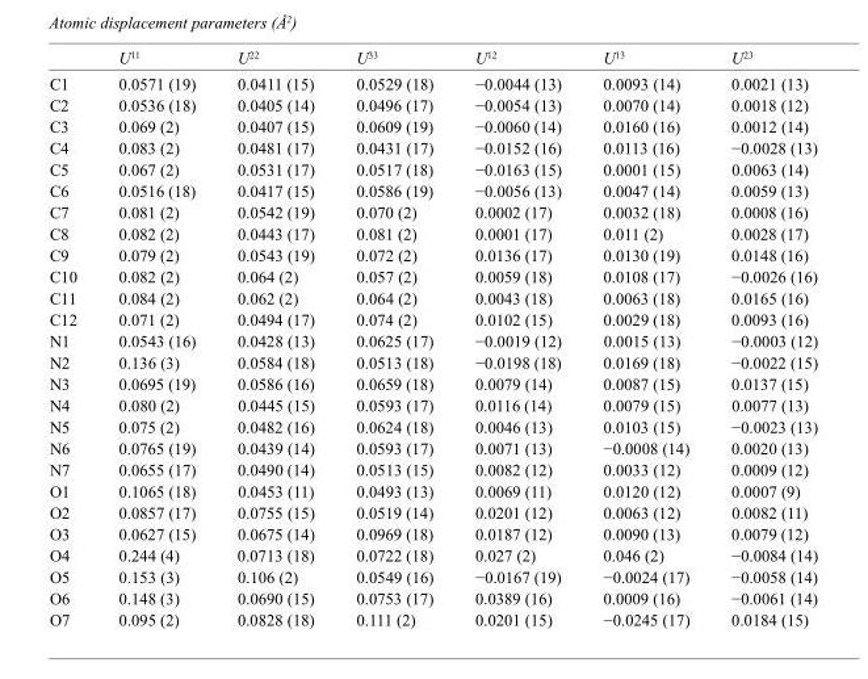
<table><thead><tr><td></td><td>U<sup>11</sup></td><td>U<sup>22</sup></td><td>U<sup>33</sup></td><td>U<sup>12</sup></td><td>U<sup>13</sup></td><td>U<sup>23</sup></td></tr></thead><tbody><tr><td>C1</td><td>0.0571 (19)</td><td>0.0411 (15)</td><td>0.0529 (18)</td><td>−0.0044 (13)</td><td>0.0093 (14)</td><td>0.0021 (13)</td></tr><tr><td>C2</td><td>0.0536 (18)</td><td>0.0405 (14)</td><td>0.0496 (17)</td><td>−0.0054 (13)</td><td>0.0070 (14)</td><td>0.0018 (12)</td></tr><tr><td>C3</td><td>0.069 (2)</td><td>0.0407 (15)</td><td>0.0609 (19)</td><td>−0.0060 (14)</td><td>0.0160 (16)</td><td>0.0012 (14)</td></tr><tr><td>C4</td><td>0.083 (2)</td><td>0.0481 (17)</td><td>0.0431 (17)</td><td>−0.0152 (16)</td><td>0.0113 (16)</td><td>−0.0028 (13)</td></tr><tr><td>C5</td><td>0.067 (2)</td><td>0.0531 (17)</td><td>0.0517 (18)</td><td>−0.0163 (15)</td><td>0.0001 (15)</td><td>0.0063 (14)</td></tr><tr><td>C6</td><td>0.0516 (18)</td><td>0.0417 (15)</td><td>0.0586 (19)</td><td>−0.0056 (13)</td><td>0.0047 (14)</td><td>0.0059 (13)</td></tr><tr><td>C7</td><td>0.081 (2)</td><td>0.0542 (19)</td><td>0.070 (2)</td><td>0.0002 (17)</td><td>0.0032 (18)</td><td>0.0008 (16)</td></tr><tr><td>C8</td><td>0.082 (2)</td><td>0.0443 (17)</td><td>0.081 (2)</td><td>0.0001 (17)</td><td>0.011 (2)</td><td>0.0028 (17)</td></tr><tr><td>C9</td><td>0.079 (2)</td><td>0.0543 (19)</td><td>0.072 (2)</td><td>0.0136 (17)</td><td>0.0130 (19)</td><td>0.0148 (16)</td></tr><tr><td>C10</td><td>0.082 (2)</td><td>0.064 (2)</td><td>0.057 (2)</td><td>0.0059 (18)</td><td>0.0108 (17)</td><td>−0.0026 (16)</td></tr><tr><td>C11</td><td>0.084 (2)</td><td>0.062 (2)</td><td>0.064 (2)</td><td>0.0043 (18)</td><td>0.0063 (18)</td><td>0.0165 (16)</td></tr><tr><td>C12</td><td>0.071 (2)</td><td>0.0494 (17)</td><td>0.074 (2)</td><td>0.0102 (15)</td><td>0.0029 (18)</td><td>0.0093 (16)</td></tr><tr><td>N1</td><td>0.0543 (16)</td><td>0.0428 (13)</td><td>0.0625 (17)</td><td>−0.0019 (12)</td><td>0.0015 (13)</td><td>−0.0003 (12)</td></tr><tr><td>N2</td><td>0.136 (3)</td><td>0.0584 (18)</td><td>0.0513 (18)</td><td>−0.0198 (18)</td><td>0.0169 (18)</td><td>−0.0022 (15)</td></tr><tr><td>N3</td><td>0.0695 (19)</td><td>0.0586 (16)</td><td>0.0659 (18)</td><td>0.0079 (14)</td><td>0.0087 (15)</td><td>0.0137 (15)</td></tr><tr><td>N4</td><td>0.080 (2)</td><td>0.0445 (15)</td><td>0.0593 (17)</td><td>0.0116 (14)</td><td>0.0079 (15)</td><td>0.0077 (13)</td></tr><tr><td>N5</td><td>0.075 (2)</td><td>0.0482 (16)</td><td>0.0624 (18)</td><td>0.0046 (13)</td><td>0.0103 (15)</td><td>−0.0023 (13)</td></tr><tr><td>N6</td><td>0.0765 (19)</td><td>0.0439 (14)</td><td>0.0593 (17)</td><td>0.0071 (13)</td><td>−0.0008 (14)</td><td>0.0020 (13)</td></tr><tr><td>N7</td><td>0.0655 (17)</td><td>0.0490 (14)</td><td>0.0513 (15)</td><td>0.0082 (12)</td><td>0.0033 (12)</td><td>0.0009 (12)</td></tr><tr><td>O1</td><td>0.1065 (18)</td><td>0.0453 (11)</td><td>0.0493 (13)</td><td>0.0069 (11)</td><td>0.0120 (12)</td><td>0.0007 (9)</td></tr><tr><td>O2</td><td>0.0857 (17)</td><td>0.0755 (15)</td><td>0.0519 (14)</td><td>0.0201 (12)</td><td>0.0063 (12)</td><td>0.0082 (11)</td></tr><tr><td>O3</td><td>0.0627 (15)</td><td>0.0675 (14)</td><td>0.0969 (18)</td><td>0.0187 (12)</td><td>0.0090 (13)</td><td>0.0079 (12)</td></tr><tr><td>O4</td><td>0.244 (4)</td><td>0.0713 (18)</td><td>0.0722 (18)</td><td>0.027 (2)</td><td>0.046 (2)</td><td>−0.0084 (14)</td></tr><tr><td>O5</td><td>0.153 (3)</td><td>0.106 (2)</td><td>0.0549 (16)</td><td>−0.0167 (19)</td><td>−0.0024 (17)</td><td>−0.0058 (14)</td></tr><tr><td>O6</td><td>0.148 (3)</td><td>0.0690 (15)</td><td>0.0753 (17)</td><td>0.0389 (16)</td><td>0.0009 (16)</td><td>−0.0061 (14)</td></tr><tr><td>O7</td><td>0.095 (2)</td><td>0.0828 (18)</td><td>0.111 (2)</td><td>0.0201 (15)</td><td>−0.0245 (17)</td><td>0.0184 (15)</td></tr></tbody></table>